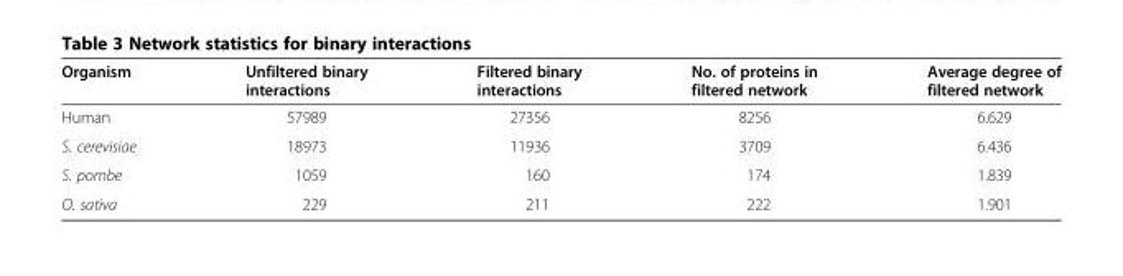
<table><thead><tr><td>Organism</td><td>Unfiltered binary interactions</td><td>Filtered binary interactions</td><td>No. of proteins in filtered network</td><td>Average degree of filtered network</td></tr></thead><tbody><tr><td>Human</td><td>57989</td><td>27356</td><td>8256</td><td>6.629</td></tr><tr><td>S. cerevisiae</td><td>18973</td><td>11936</td><td>3709</td><td>6.436</td></tr><tr><td>S. pombe</td><td>1059</td><td>160</td><td>174</td><td>1.839</td></tr><tr><td>O. sativa</td><td>229</td><td>211</td><td>222</td><td>1.901</td></tr></tbody></table>